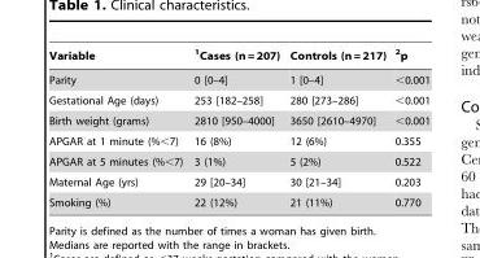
<table><thead><tr><td>Variable</td><td>1Cases (n = 207)</td><td>Controls (n = 217)</td><td>2p</td></tr></thead><tbody><tr><td>Parity</td><td>0 [0–4]</td><td>1 [0–4]</td><td>&lt;0.001</td></tr><tr><td>Gestational Age (days)</td><td>253 [182–258]</td><td>280 [273–286]</td><td>&lt;0.001</td></tr><tr><td>Birth weight (grams)</td><td>2810 [950–4000]</td><td>3650 [2610–4970]</td><td>&lt;0.001</td></tr><tr><td>APGAR at 1 minute (%&lt;7)</td><td>16 (8%)</td><td>12 (6%)</td><td>0.355</td></tr><tr><td>APGAR at 5 minutes (%&lt;7)</td><td>3 (1%)</td><td>5 (2%)</td><td>0.522</td></tr><tr><td>Maternal Age (yrs)</td><td>29 [20–34]</td><td>30 [21–34]</td><td>0.203</td></tr><tr><td>Smoking (%)</td><td>22 (12%)</td><td>21 (11%)</td><td>0.770</td></tr></tbody></table>